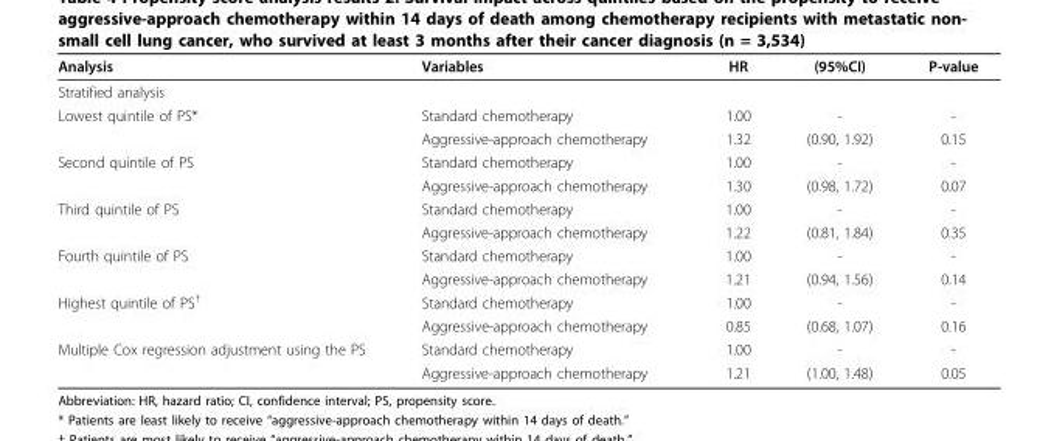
<table><thead><tr><td>Analysis</td><td>Variables</td><td>HR</td><td>(95%CI)</td><td>P-value</td></tr></thead><tbody><tr><td colspan="5">Stratified analysis</td></tr><tr><td rowspan="2">Lowest quintile of PS*</td><td>Standard chemotherapy</td><td>1.00</td><td>-</td><td>-</td></tr><tr><td>Aggressive-approach chemotherapy</td><td>1.32</td><td>(0.90, 1.92)</td><td>0.15</td></tr><tr><td rowspan="2">Second quintile of PS</td><td>Standard chemotherapy</td><td>1.00</td><td>-</td><td>-</td></tr><tr><td>Aggressive-approach chemotherapy</td><td>1.30</td><td>(0.98, 1.72)</td><td>0.07</td></tr><tr><td rowspan="2">Third quintile of PS</td><td>Standard chemotherapy</td><td>1.00</td><td>-</td><td>-</td></tr><tr><td>Aggressive-approach chemotherapy</td><td>1.22</td><td>(0.81, 1.84)</td><td>0.35</td></tr><tr><td rowspan="2">Fourth quintile of PS</td><td>Standard chemotherapy</td><td>1.00</td><td>-</td><td>-</td></tr><tr><td>Aggressive-approach chemotherapy</td><td>1.21</td><td>(0.94, 1.56)</td><td>0.14</td></tr><tr><td rowspan="2">Highest quintile of PS<sup>†</sup></td><td>Standard chemotherapy</td><td>1.00</td><td>-</td><td>-</td></tr><tr><td>Aggressive-approach chemotherapy</td><td>0.85</td><td>(0.68, 1.07)</td><td>0.16</td></tr><tr><td rowspan="2">Multiple Cox regression adjustment using the PS</td><td>Standard chemotherapy</td><td>1.00</td><td>-</td><td>-</td></tr><tr><td>Aggressive-approach chemotherapy</td><td>1.21</td><td>(1.00, 1.48)</td><td>0.05</td></tr></tbody></table>